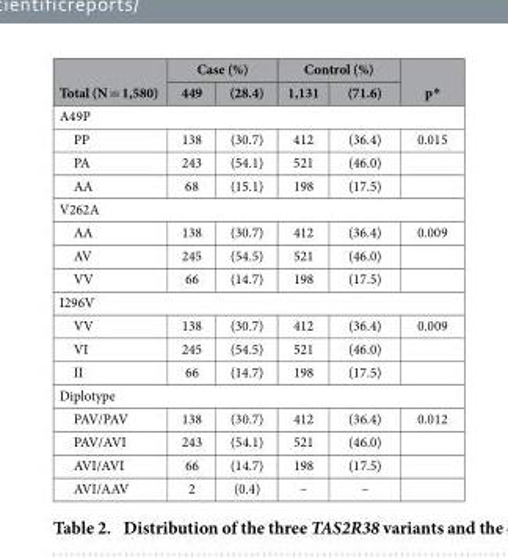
<table><thead><tr><td rowspan="2">Total (N = 1,580)</td><td colspan="2">Case (%)</td><td colspan="2">Control (%)</td><td rowspan="2">p*</td></tr><tr><td>449</td><td>(28.4)</td><td>1,131</td><td>(71.6)</td></tr></thead><tbody><tr><td colspan="6">A49P</td></tr><tr><td>PP</td><td>138</td><td>(30.7)</td><td>412</td><td>(36.4)</td><td>0.015</td></tr><tr><td>PA</td><td>243</td><td>(54.1)</td><td>521</td><td>(46.0)</td><td></td></tr><tr><td>AA</td><td>68</td><td>(15.1)</td><td>198</td><td>(17.5)</td><td></td></tr><tr><td colspan="6">V262A</td></tr><tr><td>AA</td><td>138</td><td>(30.7)</td><td>412</td><td>(36.4)</td><td>0.009</td></tr><tr><td>AV</td><td>245</td><td>(54.5)</td><td>521</td><td>(46.0)</td><td></td></tr><tr><td>VV</td><td>66</td><td>(14.7)</td><td>198</td><td>(17.5)</td><td></td></tr><tr><td colspan="6">I296V</td></tr><tr><td>VV</td><td>138</td><td>(30.7)</td><td>412</td><td>(36.4)</td><td>0.009</td></tr><tr><td>VI</td><td>245</td><td>(54.5)</td><td>521</td><td>(46.0)</td><td></td></tr><tr><td>II</td><td>66</td><td>(14.7)</td><td>198</td><td>(17.5)</td><td></td></tr><tr><td colspan="6">Diplotype</td></tr><tr><td>PAV/PAV</td><td>138</td><td>(30.7)</td><td>412</td><td>(36.4)</td><td>0.012</td></tr><tr><td>PAV/AVI</td><td>243</td><td>(54.1)</td><td>521</td><td>(46.0)</td><td></td></tr><tr><td>AVI/AVI</td><td>66</td><td>(14.7)</td><td>198</td><td>(17.5)</td><td></td></tr><tr><td>AVI/AAV</td><td>2</td><td>(0.4)</td><td>–</td><td>–</td><td></td></tr></tbody></table>